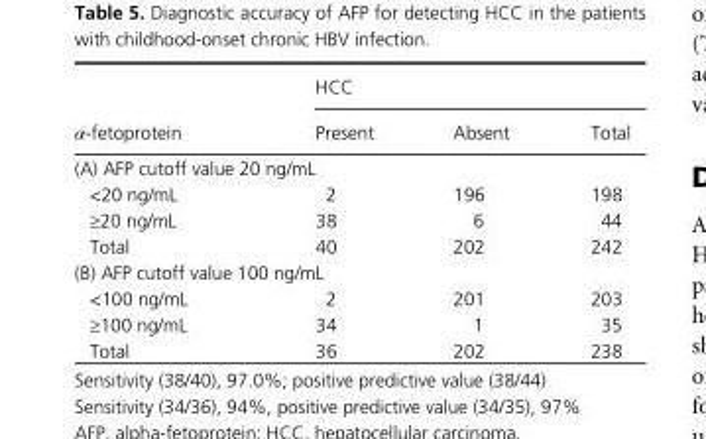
<table><thead><tr><td rowspan="2">α- fetoprotein</td><td colspan="3">HCC</td></tr><tr><td>Present</td><td>Absent</td><td>Total</td></tr></thead><tbody><tr><td colspan="4">(A) AFP cutoff value 20 ng/mL</td></tr><tr><td>&lt;20 ng/mL</td><td>2</td><td>196</td><td>198</td></tr><tr><td>≥20 ng/mL</td><td>38</td><td>6</td><td>44</td></tr><tr><td>Total</td><td>40</td><td>202</td><td>242</td></tr><tr><td colspan="4">(B) AFP cutoff value 100 ng/mL</td></tr><tr><td>&lt;100 ng/mL</td><td>2</td><td>201</td><td>203</td></tr><tr><td>≥100 ng/mL</td><td>34</td><td>1</td><td>35</td></tr><tr><td>Total</td><td>36</td><td>202</td><td>238</td></tr></tbody></table>